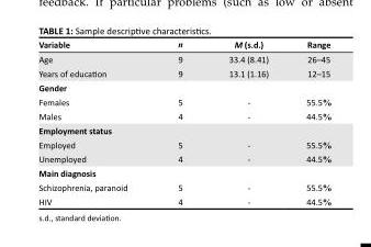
<table><thead><tr><td>Variable</td><td>n</td><td>M (s.d.)</td><td>Range</td></tr></thead><tbody><tr><td>Age</td><td>9</td><td>33.4 (8.41)</td><td>26–45</td></tr><tr><td>Years of education</td><td>9</td><td>13.1 (1.16)</td><td>12–15</td></tr><tr><td colspan="4">Gender</td></tr><tr><td>Females</td><td>5</td><td>-</td><td>55.5%</td></tr><tr><td>Males</td><td>4</td><td>-</td><td>44.5%</td></tr><tr><td colspan="4">Employment status</td></tr><tr><td>Employed</td><td>5</td><td>-</td><td>55.5%</td></tr><tr><td>Unemployed</td><td>4</td><td>-</td><td>44.5%</td></tr><tr><td colspan="4">Main diagnosis</td></tr><tr><td>Schizophrenia, paranoid</td><td>5</td><td>-</td><td>55.5%</td></tr><tr><td>HIV</td><td>4</td><td>-</td><td>44.5%</td></tr></tbody></table>